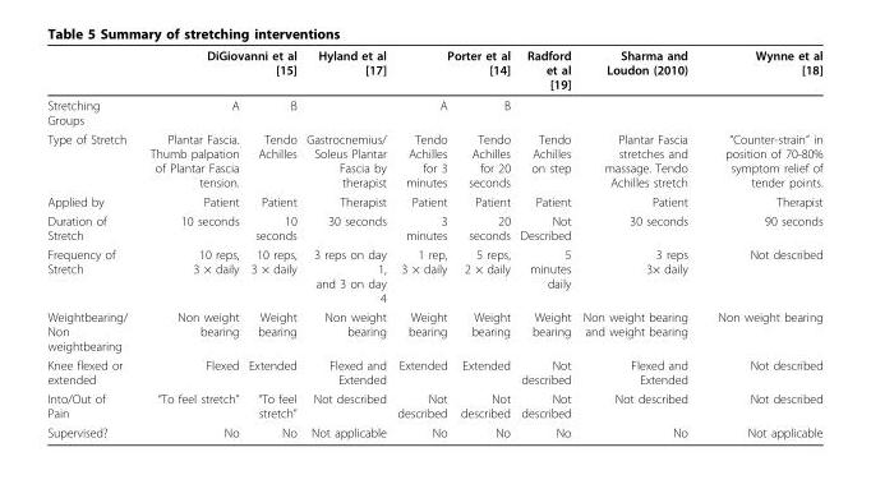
<table><thead><tr><td rowspan="2">Stretching Groups</td><td colspan="2">DiGiovanni et al [15]</td><td rowspan="2">Hyland et al [17]</td><td colspan="2">Porter et al [14]</td><td rowspan="2">Radford et al [19]</td><td rowspan="2">Sharma and Loudon (2010)</td><td rowspan="2">Wynne et al [18]</td></tr><tr><td>A</td><td>B</td><td>A</td><td>B</td></tr></thead><tbody><tr><td>Type of Stretch</td><td>Plantar Fascia. Thumb palpation of Plantar Fascia tension.</td><td>Tendo Achilles</td><td>Gastrocnemius/ Soleus Plantar Fascia by therapist</td><td>Tendo Achilles for 3 minutes</td><td>Tendo Achilles for 20 seconds</td><td>Tendo Achilles on step</td><td>Plantar Fascia stretches and massage. Tendo Achilles stretch</td><td>“Counter-strain” in position of 70-80% symptom relief of tender points.</td></tr><tr><td>Applied by</td><td>Patient</td><td>Patient</td><td>Therapist</td><td>Patient</td><td>Patient</td><td>Patient</td><td>Patient</td><td>Therapist</td></tr><tr><td>Duration of Stretch</td><td>10 seconds</td><td>10 seconds</td><td>30 seconds</td><td>3 minutes</td><td>20 seconds</td><td>Not Described</td><td>30 seconds</td><td>90 seconds</td></tr><tr><td>Frequency of Stretch</td><td>10 reps, 3 × daily</td><td>10 reps, 3 × daily</td><td>3 reps on day 1, and 3 on day 4</td><td>1 rep, 3 × daily</td><td>5 reps, 2 × daily</td><td>5 minutes daily</td><td>3 reps 3× daily</td><td>Not described</td></tr><tr><td>Weightbearing/ Non weightbearing</td><td>Non weight bearing</td><td>Weight bearing</td><td>Non weight bearing</td><td>Weight bearing</td><td>Weight bearing</td><td>Weight bearing</td><td>Non weight bearing and weight bearing</td><td>Non weight bearing</td></tr><tr><td>Knee flexed or extended</td><td>Flexed</td><td>Extended</td><td>Flexed and Extended</td><td>Extended</td><td>Extended</td><td>Not described</td><td>Flexed and Extended</td><td>Not described</td></tr><tr><td>Into/Out of Pain</td><td>“To feel stretch”</td><td>“To feel stretch”</td><td>Not described</td><td>Not described</td><td>Not described</td><td>Not described</td><td>Not described</td><td>Not described</td></tr><tr><td>Supervised?</td><td>No</td><td>No</td><td>Not applicable</td><td>No</td><td>No</td><td>No</td><td>No</td><td>Not applicable</td></tr></tbody></table>